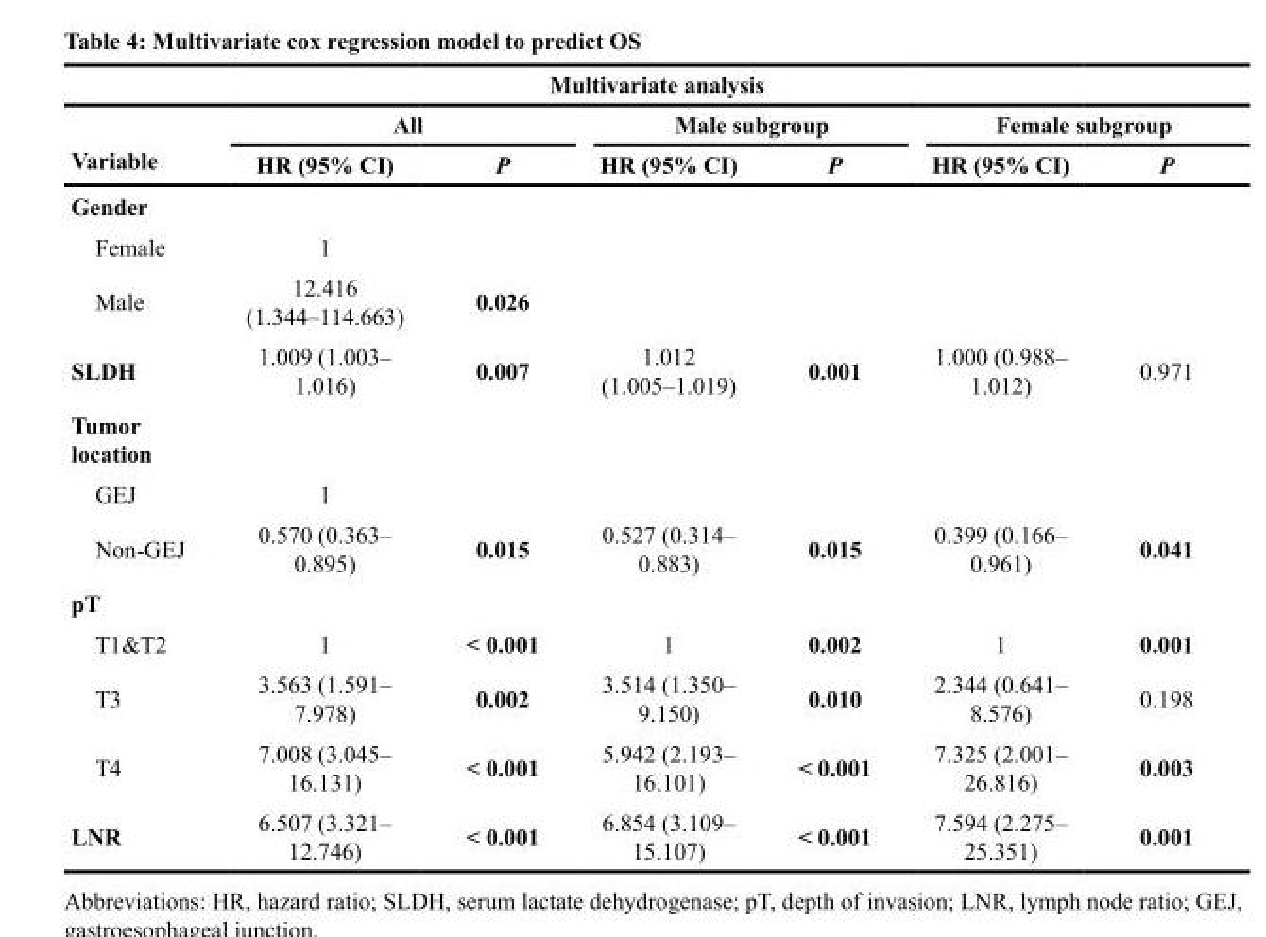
<table><thead><tr><td colspan="7">Multivariate analysis</td></tr><tr><td rowspan="2">Variable</td><td colspan="2">All</td><td colspan="2">Male subgroup</td><td colspan="2">Female subgroup</td></tr><tr><td>HR (95% CI)</td><td>P</td><td>HR (95% CI)</td><td>P</td><td>HR (95% CI)</td><td>P</td></tr></thead><tbody><tr><td colspan="7">Gender</td></tr><tr><td>Female</td><td>1</td><td></td><td></td><td></td><td></td><td></td></tr><tr><td>Male</td><td>12.416 (1.344–114.663)</td><td>0.026</td><td></td><td></td><td></td><td></td></tr><tr><td>SLDH</td><td>1.009 (1.003– 1.016)</td><td>0.007</td><td>1.012 (1.005–1.019)</td><td>0.001</td><td>1.000 (0.988– 1.012)</td><td>0.971</td></tr><tr><td colspan="7">Tumor location</td></tr><tr><td>GEJ</td><td>1</td><td></td><td></td><td></td><td></td><td></td></tr><tr><td>Non-GEJ</td><td>0.570 (0.363– 0.895)</td><td>0.015</td><td>0.527 (0.314– 0.883)</td><td>0.015</td><td>0.399 (0.166– 0.961)</td><td>0.041</td></tr><tr><td colspan="7">pT</td></tr><tr><td>T1&amp;T2</td><td>1</td><td>&lt; 0.001</td><td>1</td><td>0.002</td><td>1</td><td>0.001</td></tr><tr><td>T3</td><td>3.563 (1.591– 7.978)</td><td>0.002</td><td>3.514 (1.350– 9.150)</td><td>0.010</td><td>2.344 (0.641– 8.576)</td><td>0.198</td></tr><tr><td>T4</td><td>7.008 (3.045– 16.131)</td><td>&lt; 0.001</td><td>5.942 (2.193– 16.101)</td><td>&lt; 0.001</td><td>7.325 (2.001– 26.816)</td><td>0.003</td></tr><tr><td>LNR</td><td>6.507 (3.321– 12.746)</td><td>&lt; 0.001</td><td>6.854 (3.109– 15.107)</td><td>&lt; 0.001</td><td>7.594 (2.275– 25.351)</td><td>0.001</td></tr></tbody></table>